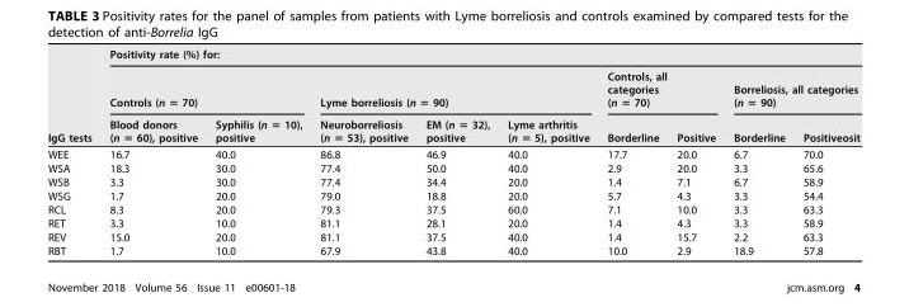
<table><thead><tr><td rowspan="3">IgG tests</td><td colspan="9">Positivity rate (%) for:</td></tr><tr><td colspan="2">Controls (n = 70)</td><td colspan="3">Lyme borreliosis (n = 90)</td><td colspan="2">Controls, all categories (n = 70)</td><td colspan="2">Borreliosis, all categories (n = 90)</td></tr><tr><td>Blood donors (n = 60), positive</td><td>Syphilis (n = 10), positive</td><td>Neuroborreliosis (n = 53), positive</td><td>EM (n = 32), positive</td><td>Lyme arthritis (n = 5), positive</td><td>Borderline</td><td>Positive</td><td>Borderline</td><td>Positiveosit</td></tr></thead><tbody><tr><td>WEE</td><td>16.7</td><td>40.0</td><td>86.8</td><td>46.9</td><td>40.0</td><td>17.7</td><td>20.0</td><td>6.7</td><td>70.0</td></tr><tr><td>WSA</td><td>18.3</td><td>30.0</td><td>77.4</td><td>50.0</td><td>40.0</td><td>2.9</td><td>20.0</td><td>3.3</td><td>65.6</td></tr><tr><td>WSB</td><td>3.3</td><td>30.0</td><td>77.4</td><td>34.4</td><td>20.0</td><td>1.4</td><td>7.1</td><td>6.7</td><td>58.9</td></tr><tr><td>WSG</td><td>1.7</td><td>20.0</td><td>79.0</td><td>18.8</td><td>20.0</td><td>5.7</td><td>4.3</td><td>3.3</td><td>54.4</td></tr><tr><td>RCL</td><td>8.3</td><td>20.0</td><td>79.3</td><td>37.5</td><td>60.0</td><td>7.1</td><td>10.0</td><td>3.3</td><td>63.3</td></tr><tr><td>RET</td><td>3.3</td><td>10.0</td><td>81.1</td><td>28.1</td><td>20.0</td><td>1.4</td><td>4.3</td><td>3.3</td><td>58.9</td></tr><tr><td>REV</td><td>15.0</td><td>20.0</td><td>81.1</td><td>37.5</td><td>40.0</td><td>1.4</td><td>15.7</td><td>2.2</td><td>63.3</td></tr><tr><td>RBT</td><td>1.7</td><td>10.0</td><td>67.9</td><td>43.8</td><td>40.0</td><td>10.0</td><td>2.9</td><td>18.9</td><td>57.8</td></tr></tbody></table>